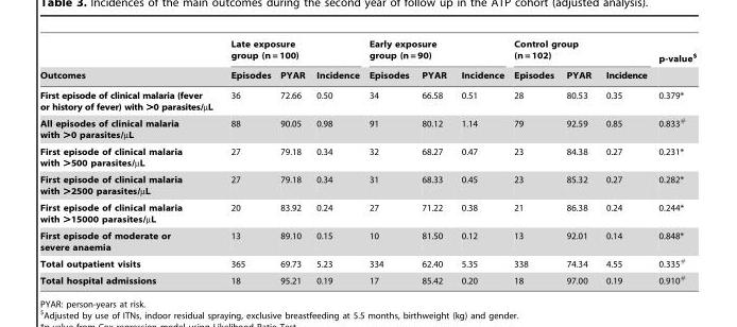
<table><thead><tr><td rowspan="2">Outcomes</td><td colspan="3">Late exposure group (n = 100)</td><td colspan="3">Early exposure group (n = 90)</td><td colspan="3">Control group (n = 102)</td><td rowspan="2">p-value$</td></tr><tr><td>Episodes</td><td>PYAR</td><td>Incidence</td><td>Episodes</td><td>PYAR</td><td>Incidence</td><td>Episodes</td><td>PYAR</td><td>Incidence</td></tr></thead><tbody><tr><td>First episode of clinical malaria (fever or history of fever) with &gt;0 parasites/µL</td><td>36</td><td>72.66</td><td>0.50</td><td>34</td><td>66.58</td><td>0.51</td><td>28</td><td>80.53</td><td>0.35</td><td>0.379*</td></tr><tr><td>All episodes of clinical malaria with &gt;0 parasites/µL</td><td>88</td><td>90.05</td><td>0.98</td><td>91</td><td>80.12</td><td>1.14</td><td>79</td><td>92.59</td><td>0.85</td><td>0.833#</td></tr><tr><td>First episode of clinical malaria with &gt;500 parasites/µL</td><td>27</td><td>79.18</td><td>0.34</td><td>32</td><td>68.27</td><td>0.47</td><td>23</td><td>84.38</td><td>0.27</td><td>0.231*</td></tr><tr><td>First episode of clinical malaria with &gt;2500 parasites/µL</td><td>27</td><td>79.18</td><td>0.34</td><td>31</td><td>68.33</td><td>0.45</td><td>23</td><td>85.32</td><td>0.27</td><td>0.282*</td></tr><tr><td>First episode of clinical malaria with &gt;15000 parasites/µL</td><td>20</td><td>83.92</td><td>0.24</td><td>27</td><td>71.22</td><td>0.38</td><td>21</td><td>86.38</td><td>0.24</td><td>0.244*</td></tr><tr><td>First episode of moderate or severe anaemia</td><td>13</td><td>89.10</td><td>0.15</td><td>10</td><td>81.50</td><td>0.12</td><td>13</td><td>92.01</td><td>0.14</td><td>0.848*</td></tr><tr><td>Total outpatient visits</td><td>365</td><td>69.73</td><td>5.23</td><td>334</td><td>62.40</td><td>5.35</td><td>338</td><td>74.34</td><td>4.55</td><td>0.335#</td></tr><tr><td>Total hospital admissions</td><td>18</td><td>95.21</td><td>0.19</td><td>17</td><td>85.42</td><td>0.20</td><td>18</td><td>97.00</td><td>0.19</td><td>0.910#</td></tr></tbody></table>